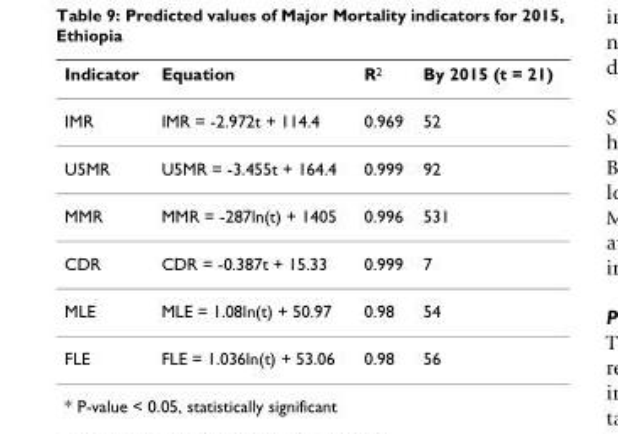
<table><thead><tr><td>Indicator</td><td>Equation</td><td>R<sup>2</sup></td><td>By 2015 (t = 21)</td></tr></thead><tbody><tr><td>IMR</td><td>IMR = -2.972t + 114.4</td><td>0.969</td><td>52</td></tr><tr><td>U5MR</td><td>U5MR = -3.455t + 164.4</td><td>0.999</td><td>92</td></tr><tr><td>MMR</td><td>MMR = -287ln(t) + 1405</td><td>0.996</td><td>531</td></tr><tr><td>CDR</td><td>CDR = -0.387t + 15.33</td><td>0.999</td><td>7</td></tr><tr><td>MLE</td><td>MLE = 1.08ln(t) + 50.97</td><td>0.98</td><td>54</td></tr><tr><td>FLE</td><td>FLE = 1.036ln(t) + 53.06</td><td>0.98</td><td>56</td></tr></tbody></table>